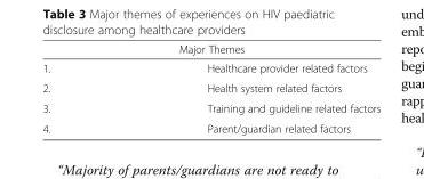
<table><thead><tr><td colspan="2">Major Themes</td></tr><tr><td>1.</td><td>Healthcare provider related factors</td></tr></thead><tbody><tr><td>2.</td><td>Health system related factors</td></tr><tr><td>3.</td><td>Training and guideline related factors</td></tr><tr><td>4.</td><td>Parent/guardian related factors</td></tr></tbody></table>